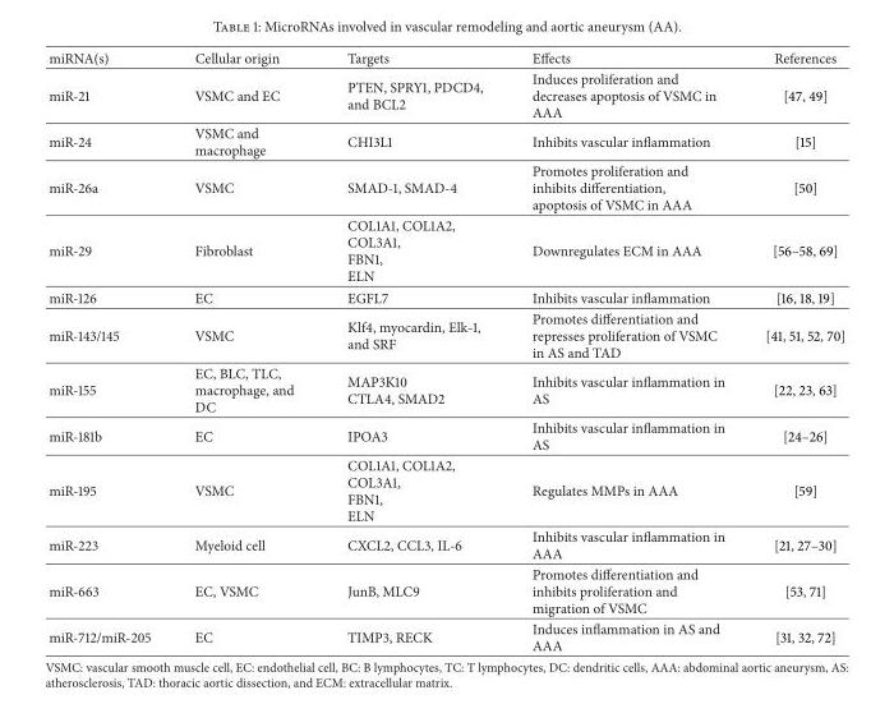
<table><thead><tr><td>miRNA(s)</td><td>Cellular origin</td><td>Targets</td><td>Effects</td><td>References</td></tr></thead><tbody><tr><td>miR-21</td><td>VSMC and EC</td><td>PTEN, SPRY1, PDCD4, and BCL2</td><td>Induces proliferation and decreases apoptosis of VSMC in AAA</td><td>[47, 49]</td></tr><tr><td>miR-24</td><td>VSMC and macrophage</td><td>CHI3L1</td><td>Inhibits vascular inflammation</td><td>[15]</td></tr><tr><td>miR-26a</td><td>VSMC</td><td>SMAD-1, SMAD-4</td><td>Promotes proliferation and inhibits differentiation, apoptosis of VSMC in AAA</td><td>[50]</td></tr><tr><td>miR-29</td><td>Fibroblast</td><td>COL1A1, COL1A2, COL3A1, FBN1, ELN</td><td>Downregulates ECM in AAA</td><td>[56–58, 69]</td></tr><tr><td>miR-126</td><td>EC</td><td>EGFL7</td><td>Inhibits vascular inflammation</td><td>[16, 18, 19]</td></tr><tr><td>miR-143/145</td><td>VSMC</td><td>Klf4, myocardin, Elk-1, and SRF</td><td>Promotes differentiation and represses proliferation of VSMC in AS and TAD</td><td>[41, 51, 52, 70]</td></tr><tr><td>miR-155</td><td>EC, BLC, TLC, macrophage, and DC</td><td>MAP3K10 CTLA4, SMAD2</td><td>Inhibits vascular inflammation in AS</td><td>[22, 23, 63]</td></tr><tr><td>miR-181b</td><td>EC</td><td>IPOA3</td><td>Inhibits vascular inflammation in AS</td><td>[24–26]</td></tr><tr><td>miR-195</td><td>VSMC</td><td>COL1A1, COL1A2, COL3A1, FBN1, ELN</td><td>Regulates MMPs in AAA</td><td>[59]</td></tr><tr><td>miR-223</td><td>Myeloid cell</td><td>CXCL2, CCL3, IL-6</td><td>Inhibits vascular inflammation in AAA</td><td>[21, 27–30]</td></tr><tr><td>miR-663</td><td>EC, VSMC</td><td>JunB, MLC9</td><td>Promotes differentiation and inhibits proliferation and migration of VSMC</td><td>[53, 71]</td></tr><tr><td>miR-712/miR-205</td><td>EC</td><td>TIMP3, RECK</td><td>Induces inflammation in AS and AAA</td><td>[31, 32, 72]</td></tr></tbody></table>